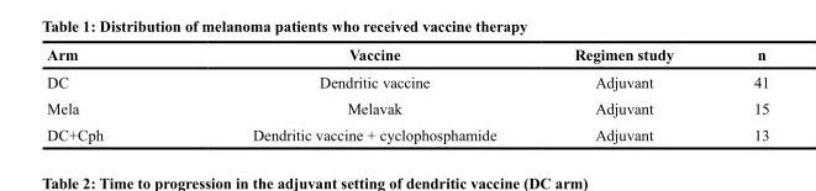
<table><thead><tr><td>Arm</td><td>Vaccine</td><td>Regimen study</td><td>n</td></tr></thead><tbody><tr><td>DC</td><td>Dendritic vaccine</td><td>Adjuvant</td><td>41</td></tr><tr><td>Mela</td><td>Melavak</td><td>Adjuvant</td><td>15</td></tr><tr><td>DC+Cph</td><td>Dendritic vaccine + cyclophosphamide</td><td>Adjuvant</td><td>13</td></tr></tbody></table>